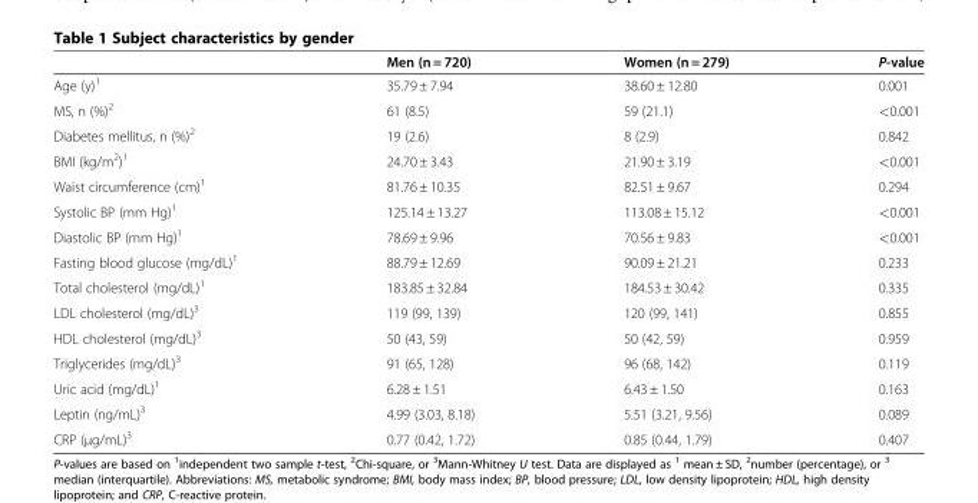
<table><thead><tr><td></td><td>Men (n = 720)</td><td>Women (n = 279)</td><td>P-value</td></tr></thead><tbody><tr><td>Age (y)<sup>1</sup></td><td>35.79 ± 7.94</td><td>38.60 ± 12.80</td><td>0.001</td></tr><tr><td>MS, n (%)<sup>2</sup></td><td>61 (8.5)</td><td>59 (21.1)</td><td>&lt;0.001</td></tr><tr><td>Diabetes mellitus, n (%)<sup>2</sup></td><td>19 (2.6)</td><td>8 (2.9)</td><td>0.842</td></tr><tr><td>BMI (kg/m<sup>2</sup>)<sup>1</sup></td><td>24.70 ± 3.43</td><td>21.90 ± 3.19</td><td>&lt;0.001</td></tr><tr><td>Waist circumference (cm)<sup>1</sup></td><td>81.76 ± 10.35</td><td>82.51 ± 9.67</td><td>0.294</td></tr><tr><td>Systolic BP (mm Hg)<sup>1</sup></td><td>125.14 ± 13.27</td><td>113.08 ± 15.12</td><td>&lt;0.001</td></tr><tr><td>Diastolic BP (mm Hg)<sup>1</sup></td><td>78.69 ± 9.96</td><td>70.56 ± 9.83</td><td>&lt;0.001</td></tr><tr><td>Fasting blood glucose (mg/dL)<sup>1</sup></td><td>88.79 ± 12.69</td><td>90.09 ± 21.21</td><td>0.233</td></tr><tr><td>Total cholesterol (mg/dL)<sup>1</sup></td><td>183.85 ± 32.84</td><td>184.53 ± 30.42</td><td>0.335</td></tr><tr><td>LDL cholesterol (mg/dL)<sup>3</sup></td><td>119 (99, 139)</td><td>120 (99, 141)</td><td>0.855</td></tr><tr><td>HDL cholesterol (mg/dL)<sup>3</sup></td><td>50 (43, 59)</td><td>50 (42, 59)</td><td>0.959</td></tr><tr><td>Triglycerides (mg/dL)<sup>3</sup></td><td>91 (65, 128)</td><td>96 (68, 142)</td><td>0.119</td></tr><tr><td>Uric acid (mg/dL)<sup>1</sup></td><td>6.28 ± 1.51</td><td>6.43 ± 1.50</td><td>0.163</td></tr><tr><td>Leptin (ng/mL)<sup>3</sup></td><td>4.99 (3.03, 8.18)</td><td>5.51 (3.21, 9.56)</td><td>0.089</td></tr><tr><td>CRP (μg/mL)<sup>3</sup></td><td>0.77 (0.42, 1.72)</td><td>0.85 (0.44, 1.79)</td><td>0.407</td></tr></tbody></table>